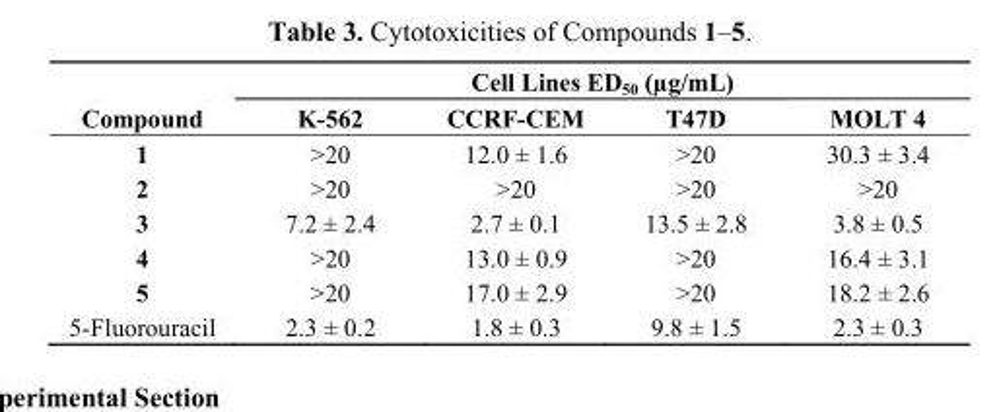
<table><thead><tr><td rowspan="2">Compound</td><td colspan="4">Cell Lines ED<sub>50</sub> (µg/mL)</td></tr><tr><td>K-562</td><td>CCRF-CEM</td><td>T47D</td><td>MOLT 4</td></tr></thead><tbody><tr><td>1</td><td>&gt;20</td><td>12.0 ± 1.6</td><td>&gt;20</td><td>30.3 ± 3.4</td></tr><tr><td>2</td><td>&gt;20</td><td>&gt;20</td><td>&gt;20</td><td>&gt;20</td></tr><tr><td>3</td><td>7.2 ± 2.4</td><td>2.7 ± 0.1</td><td>13.5 ± 2.8</td><td>3.8 ± 0.5</td></tr><tr><td>4</td><td>&gt;20</td><td>13.0 ± 0.9</td><td>&gt;20</td><td>16.4 ± 3.1</td></tr><tr><td>5</td><td>&gt;20</td><td>17.0 ± 2.9</td><td>&gt;20</td><td>18.2 ± 2.6</td></tr><tr><td>5-Fluorouracil</td><td>2.3 ± 0.2</td><td>1.8 ± 0.3</td><td>9.8 ± 1.5</td><td>2.3 ± 0.3</td></tr></tbody></table>